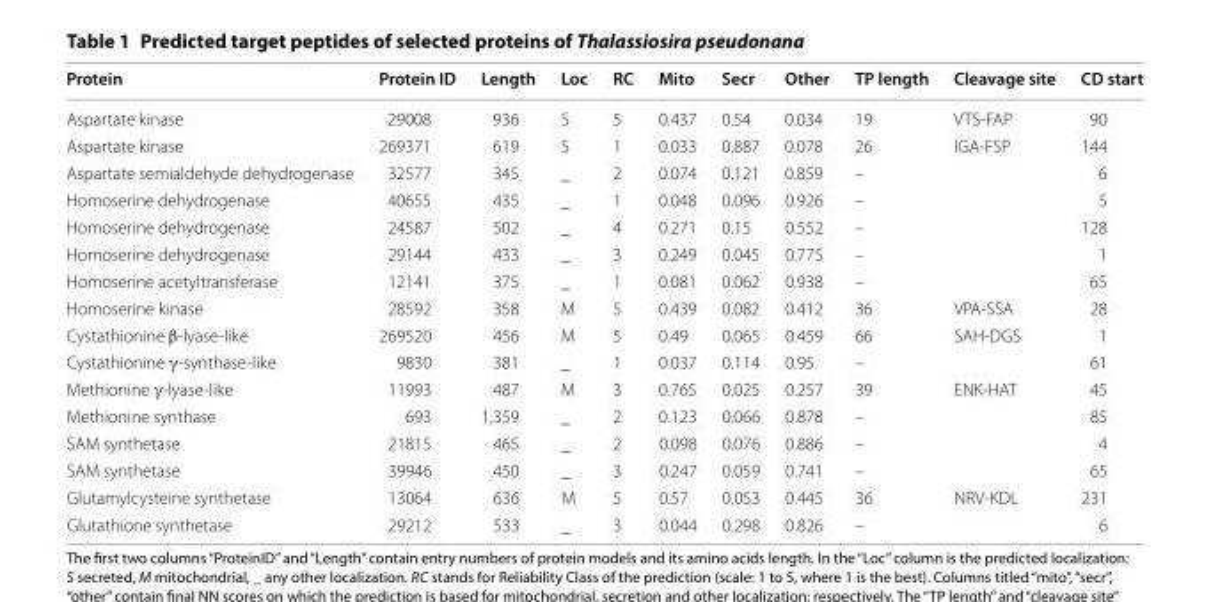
<table><thead><tr><td>Protein</td><td>Protein ID</td><td>Length</td><td>Loc</td><td>RC</td><td>Mito</td><td>Secr</td><td>Other</td><td>TP length</td><td>Cleavage site</td><td>CD start</td></tr></thead><tbody><tr><td>Aspartate kinase</td><td>29008</td><td>936</td><td>S</td><td>5</td><td>0.437</td><td>0.54</td><td>0.034</td><td>19</td><td>VTS-FAP</td><td>90</td></tr><tr><td>Aspartate kinase</td><td>269371</td><td>619</td><td>S</td><td>1</td><td>0.033</td><td>0.887</td><td>0.078</td><td>26</td><td>IGA-FSP</td><td>144</td></tr><tr><td>Aspartate semialdehyde dehydrogenase</td><td>32577</td><td>345</td><td>_</td><td>2</td><td>0.074</td><td>0.121</td><td>0.859</td><td>–</td><td></td><td>6</td></tr><tr><td>Homoserine dehydrogenase</td><td>40655</td><td>435</td><td>_</td><td>1</td><td>0.048</td><td>0.096</td><td>0.926</td><td>–</td><td></td><td>5</td></tr><tr><td>Homoserine dehydrogenase</td><td>24587</td><td>502</td><td>_</td><td>4</td><td>0.271</td><td>0.15</td><td>0.552</td><td>–</td><td></td><td>128</td></tr><tr><td>Homoserine dehydrogenase</td><td>29144</td><td>433</td><td>_</td><td>3</td><td>0.249</td><td>0.045</td><td>0.775</td><td>–</td><td></td><td>1</td></tr><tr><td>Homoserine acetyltransferase</td><td>12141</td><td>375</td><td>_</td><td>1</td><td>0.081</td><td>0.062</td><td>0.938</td><td>–</td><td></td><td>65</td></tr><tr><td>Homoserine kinase</td><td>28592</td><td>358</td><td>M</td><td>5</td><td>0.439</td><td>0.082</td><td>0.412</td><td>36</td><td>VPA-SSA</td><td>28</td></tr><tr><td>Cystathionine β-lyase-like</td><td>269520</td><td>456</td><td>M</td><td>5</td><td>0.49</td><td>0.065</td><td>0.459</td><td>66</td><td>SAH-DGS</td><td>1</td></tr><tr><td>Cystathionine γ-synthase-like</td><td>9830</td><td>381</td><td>_</td><td>1</td><td>0.037</td><td>0.114</td><td>0.95</td><td>–</td><td></td><td>61</td></tr><tr><td>Methionine γ-lyase-like</td><td>11993</td><td>487</td><td>M</td><td>3</td><td>0.765</td><td>0.025</td><td>0.257</td><td>39</td><td>ENK-HAT</td><td>45</td></tr><tr><td>Methionine synthase</td><td>693</td><td>1,359</td><td>_</td><td>2</td><td>0.123</td><td>0.066</td><td>0.878</td><td>–</td><td></td><td>85</td></tr><tr><td>SAM synthetase</td><td>21815</td><td>465</td><td>_</td><td>2</td><td>0.098</td><td>0.076</td><td>0.886</td><td>–</td><td></td><td>4</td></tr><tr><td>SAM synthetase</td><td>39946</td><td>450</td><td>_</td><td>3</td><td>0.247</td><td>0.059</td><td>0.741</td><td>–</td><td></td><td>65</td></tr><tr><td>Glutamylcysteine synthetase</td><td>13064</td><td>636</td><td>M</td><td>5</td><td>0.57</td><td>0.053</td><td>0.445</td><td>36</td><td>NRV-KDL</td><td>231</td></tr><tr><td>Glutathione synthetase</td><td>29212</td><td>533</td><td>_</td><td>3</td><td>0.044</td><td>0.298</td><td>0.826</td><td>–</td><td></td><td>6</td></tr></tbody></table>